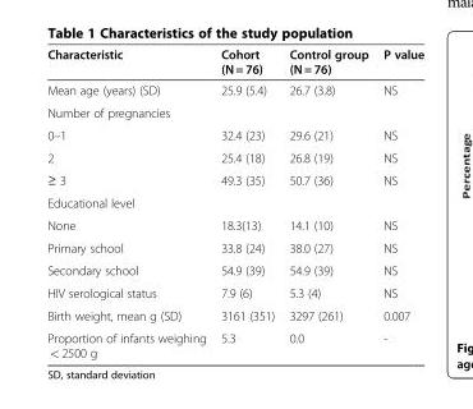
<table><thead><tr><td>Characteristic</td><td>Cohort (N = 76)</td><td>Control group (N = 76)</td><td>P value</td></tr></thead><tbody><tr><td>Mean age (years) (SD)</td><td>25.9 (5.4)</td><td>26.7 (3.8)</td><td>NS</td></tr><tr><td colspan="4">Number of pregnancies</td></tr><tr><td>0–1</td><td>32.4 (23)</td><td>29.6 (21)</td><td>NS</td></tr><tr><td>2</td><td>25.4 (18)</td><td>26.8 (19)</td><td>NS</td></tr><tr><td>≥ 3</td><td>49.3 (35)</td><td>50.7 (36)</td><td>NS</td></tr><tr><td colspan="4">Educational level</td></tr><tr><td>None</td><td>18.3(13)</td><td>14.1 (10)</td><td>NS</td></tr><tr><td>Primary school</td><td>33.8 (24)</td><td>38.0 (27)</td><td>NS</td></tr><tr><td>Secondary school</td><td>54.9 (39)</td><td>54.9 (39)</td><td>NS</td></tr><tr><td>HIV serological status</td><td>7.9 (6)</td><td>5.3 (4)</td><td>NS</td></tr><tr><td>Birth weight, mean g (SD)</td><td>3161 (351)</td><td>3297 (261)</td><td>0.007</td></tr><tr><td>Proportion of infants weighing &lt; 2500 g</td><td>5.3</td><td>0.0</td><td>-</td></tr></tbody></table>